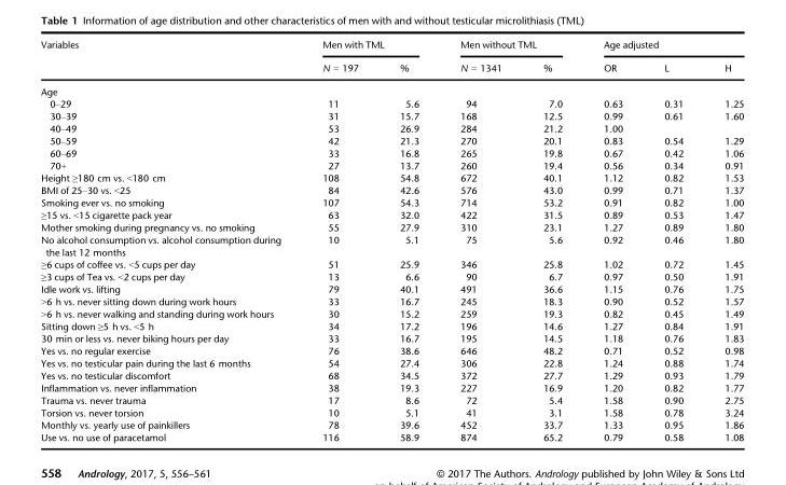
<table><thead><tr><td rowspan="2">Variables</td><td colspan="2">Men with TML</td><td colspan="2">Men without TML</td><td colspan="3">Age adjusted</td></tr><tr><td>N = 197</td><td>%</td><td>N = 1341</td><td>%</td><td>OR</td><td>L</td><td>H</td></tr></thead><tbody><tr><td colspan="8">Age</td></tr><tr><td>0–29</td><td>11</td><td>5.6</td><td>94</td><td>7.0</td><td>0.63</td><td>0.31</td><td>1.25</td></tr><tr><td>30–39</td><td>31</td><td>15.7</td><td>168</td><td>12.5</td><td>0.99</td><td>0.61</td><td>1.60</td></tr><tr><td>40–49</td><td>53</td><td>26.9</td><td>284</td><td>21.2</td><td>1.00</td><td></td><td></td></tr><tr><td>50–59</td><td>42</td><td>21.3</td><td>270</td><td>20.1</td><td>0.83</td><td>0.54</td><td>1.29</td></tr><tr><td>60–69</td><td>33</td><td>16.8</td><td>265</td><td>19.8</td><td>0.67</td><td>0.42</td><td>1.06</td></tr><tr><td>70+</td><td>27</td><td>13.7</td><td>260</td><td>19.4</td><td>0.56</td><td>0.34</td><td>0.91</td></tr><tr><td>Height ≥180 cm vs. &lt;180 cm</td><td>108</td><td>54.8</td><td>672</td><td>40.1</td><td>1.12</td><td>0.82</td><td>1.53</td></tr><tr><td>BMI of 25–30 vs. &lt;25</td><td>84</td><td>42.6</td><td>576</td><td>43.0</td><td>0.99</td><td>0.71</td><td>1.37</td></tr><tr><td>Smoking ever vs. no smoking</td><td>107</td><td>54.3</td><td>714</td><td>53.2</td><td>0.91</td><td>0.82</td><td>1.00</td></tr><tr><td>≥15 vs. &lt;15 cigarette pack year</td><td>63</td><td>32.0</td><td>422</td><td>31.5</td><td>0.89</td><td>0.53</td><td>1.47</td></tr><tr><td>Mother smoking during pregnancy vs. no smoking</td><td>55</td><td>27.9</td><td>310</td><td>23.1</td><td>1.27</td><td>0.89</td><td>1.80</td></tr><tr><td>No alcohol consumption vs. alcohol consumption during the last 12 months</td><td>10</td><td>5.1</td><td>75</td><td>5.6</td><td>0.92</td><td>0.46</td><td>1.80</td></tr><tr><td>≥6 cups of coffee vs. &lt;5 cups per day</td><td>51</td><td>25.9</td><td>346</td><td>25.8</td><td>1.02</td><td>0.72</td><td>1.45</td></tr><tr><td>≥3 cups of Tea vs. &lt;2 cups per day</td><td>13</td><td>6.6</td><td>90</td><td>6.7</td><td>0.97</td><td>0.50</td><td>1.91</td></tr><tr><td>Idle work vs. lifting</td><td>79</td><td>40.1</td><td>491</td><td>36.6</td><td>1.15</td><td>0.76</td><td>1.75</td></tr><tr><td>&gt;6 h vs. never sitting down during work hours</td><td>33</td><td>16.7</td><td>245</td><td>18.3</td><td>0.90</td><td>0.52</td><td>1.57</td></tr><tr><td>&gt;6 h vs. never walking and standing during work hours</td><td>30</td><td>15.2</td><td>259</td><td>19.3</td><td>0.82</td><td>0.45</td><td>1.49</td></tr><tr><td>Sitting down ≥5 h vs. &lt;5 h</td><td>34</td><td>17.2</td><td>196</td><td>14.6</td><td>1.27</td><td>0.84</td><td>1.91</td></tr><tr><td>30 min or less vs. never biking hours per day</td><td>33</td><td>16.7</td><td>195</td><td>14.5</td><td>1.18</td><td>0.76</td><td>1.83</td></tr><tr><td>Yes vs. no regular exercise</td><td>76</td><td>38.6</td><td>646</td><td>48.2</td><td>0.71</td><td>0.52</td><td>0.98</td></tr><tr><td>Yes vs. no testicular pain during the last 6 months</td><td>54</td><td>27.4</td><td>306</td><td>22.8</td><td>1.24</td><td>0.88</td><td>1.74</td></tr><tr><td>Yes vs. no testicular discomfort</td><td>68</td><td>34.5</td><td>372</td><td>27.7</td><td>1.29</td><td>0.93</td><td>1.79</td></tr><tr><td>Inflammation vs. never inflammation</td><td>38</td><td>19.3</td><td>227</td><td>16.9</td><td>1.20</td><td>0.82</td><td>1.77</td></tr><tr><td>Trauma vs. never trauma</td><td>17</td><td>8.6</td><td>72</td><td>5.4</td><td>1.58</td><td>0.90</td><td>2.75</td></tr><tr><td>Torsion vs. never torsion</td><td>10</td><td>5.1</td><td>41</td><td>3.1</td><td>1.58</td><td>0.78</td><td>3.24</td></tr><tr><td>Monthly vs. yearly use of painkillers</td><td>78</td><td>39.6</td><td>452</td><td>33.7</td><td>1.33</td><td>0.95</td><td>1.86</td></tr><tr><td>Use vs. no use of paracetamol</td><td>116</td><td>58.9</td><td>874</td><td>65.2</td><td>0.79</td><td>0.58</td><td>1.08</td></tr></tbody></table>